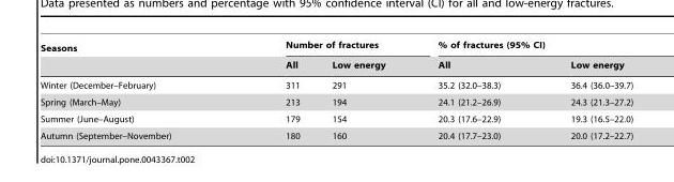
<table><thead><tr><td rowspan="2">Seasons</td><td colspan="2">Number of fractures</td><td colspan="2">% of fractures (95% CI)</td></tr><tr><td>All</td><td>Low energy</td><td>All</td><td>Low energy</td></tr></thead><tbody><tr><td>Winter (December–February)</td><td>311</td><td>291</td><td>35.2 (32.0–38.3)</td><td>36.4 (36.0–39.7)</td></tr><tr><td>Spring (March–May)</td><td>213</td><td>194</td><td>24.1 (21.2–26.9)</td><td>24.3 (21.3–27.2)</td></tr><tr><td>Summer (June–August)</td><td>179</td><td>154</td><td>20.3 (17.6–22.9)</td><td>19.3 (16.5–22.0)</td></tr><tr><td>Autumn (September–November)</td><td>180</td><td>160</td><td>20.4 (17.7–23.0)</td><td>20.0 (17.2–22.7)</td></tr></tbody></table>